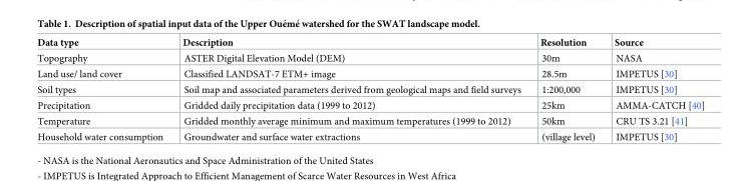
<table><thead><tr><td>Data type</td><td>Description</td><td>Resolution</td><td>Source</td></tr></thead><tbody><tr><td>Topography</td><td>ASTER Digital Elevation Model (DEM)</td><td>30m</td><td>NASA</td></tr><tr><td>Land use/ land cover</td><td>Classified LANDSAT-7 ETM+ image</td><td>28.5m</td><td>IMPETUS [30]</td></tr><tr><td>Soil types</td><td>Soil map and associated parameters derived from geological maps and field surveys</td><td>1:200,000</td><td>IMPETUS [30]</td></tr><tr><td>Precipitation</td><td>Gridded daily precipitation data (1999 to 2012)</td><td>25km</td><td>AMMA-CATCH [40]</td></tr><tr><td>Temperature</td><td>Gridded monthly average minimum and maximum temperatures (1999 to 2012)</td><td>50km</td><td>CRU TS 3.21 [41]</td></tr><tr><td>Household water consumption</td><td>Groundwater and surface water extractions</td><td>(village level)</td><td>IMPETUS [30]</td></tr></tbody></table>